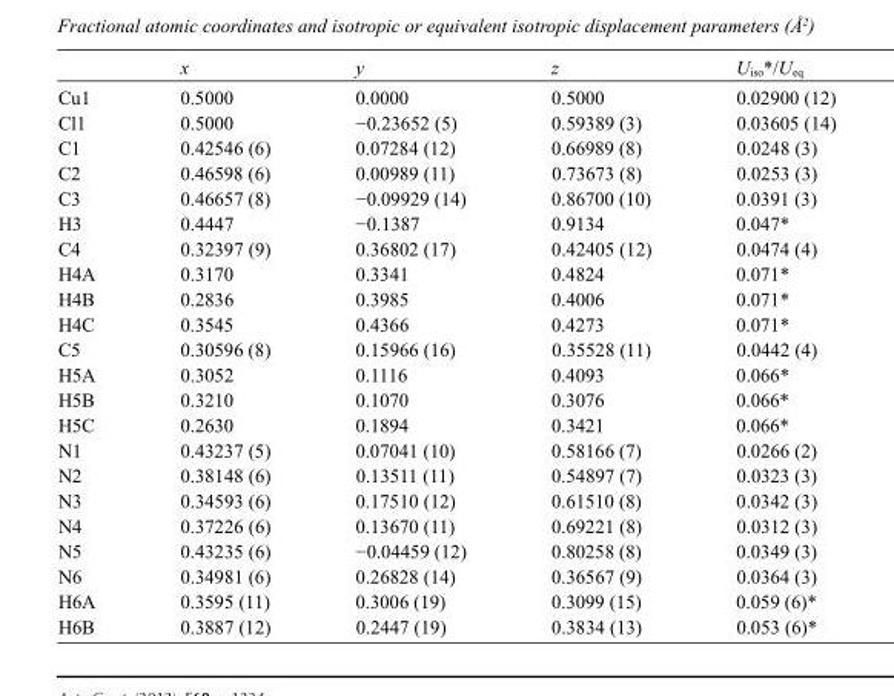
<table><thead><tr><td></td><td>x</td><td>y</td><td>z</td><td>U<sub>iso</sub>*/U<sub>eq</sub></td></tr></thead><tbody><tr><td>Cu1</td><td>0.5000</td><td>0.0000</td><td>0.5000</td><td>0.02900 (12)</td></tr><tr><td>Cl1</td><td>0.5000</td><td>−0.23652 (5)</td><td>0.59389 (3)</td><td>0.03605 (14)</td></tr><tr><td>C1</td><td>0.42546 (6)</td><td>0.07284 (12)</td><td>0.66989 (8)</td><td>0.0248 (3)</td></tr><tr><td>C2</td><td>0.46598 (6)</td><td>0.00989 (11)</td><td>0.73673 (8)</td><td>0.0253 (3)</td></tr><tr><td>C3</td><td>0.46657 (8)</td><td>−0.09929 (14)</td><td>0.86700 (10)</td><td>0.0391 (3)</td></tr><tr><td>H3</td><td>0.4447</td><td>−0.1387</td><td>0.9134</td><td>0.047*</td></tr><tr><td>C4</td><td>0.32397 (9)</td><td>0.36802 (17)</td><td>0.42405 (12)</td><td>0.0474 (4)</td></tr><tr><td>H4A</td><td>0.3170</td><td>0.3341</td><td>0.4824</td><td>0.071*</td></tr><tr><td>H4B</td><td>0.2836</td><td>0.3985</td><td>0.4006</td><td>0.071*</td></tr><tr><td>H4C</td><td>0.3545</td><td>0.4366</td><td>0.4273</td><td>0.071*</td></tr><tr><td>C5</td><td>0.30596 (8)</td><td>0.15966 (16)</td><td>0.35528 (11)</td><td>0.0442 (4)</td></tr><tr><td>H5A</td><td>0.3052</td><td>0.1116</td><td>0.4093</td><td>0.066*</td></tr><tr><td>H5B</td><td>0.3210</td><td>0.1070</td><td>0.3076</td><td>0.066*</td></tr><tr><td>H5C</td><td>0.2630</td><td>0.1894</td><td>0.3421</td><td>0.066*</td></tr><tr><td>N1</td><td>0.43237 (5)</td><td>0.07041 (10)</td><td>0.58166 (7)</td><td>0.0266 (2)</td></tr><tr><td>N2</td><td>0.38148 (6)</td><td>0.13511 (11)</td><td>0.54897 (7)</td><td>0.0323 (3)</td></tr><tr><td>N3</td><td>0.34593 (6)</td><td>0.17510 (12)</td><td>0.61510 (8)</td><td>0.0342 (3)</td></tr><tr><td>N4</td><td>0.37226 (6)</td><td>0.13670 (11)</td><td>0.69221 (8)</td><td>0.0312 (3)</td></tr><tr><td>N5</td><td>0.43235 (6)</td><td>−0.04459 (12)</td><td>0.80258 (8)</td><td>0.0349 (3)</td></tr><tr><td>N6</td><td>0.34981 (6)</td><td>0.26828 (14)</td><td>0.36567 (9)</td><td>0.0364 (3)</td></tr><tr><td>H6A</td><td>0.3595 (11)</td><td>0.3006 (19)</td><td>0.3099 (15)</td><td>0.059 (6)*</td></tr><tr><td>H6B</td><td>0.3887 (12)</td><td>0.2447 (19)</td><td>0.3834 (13)</td><td>0.053 (6)*</td></tr></tbody></table>